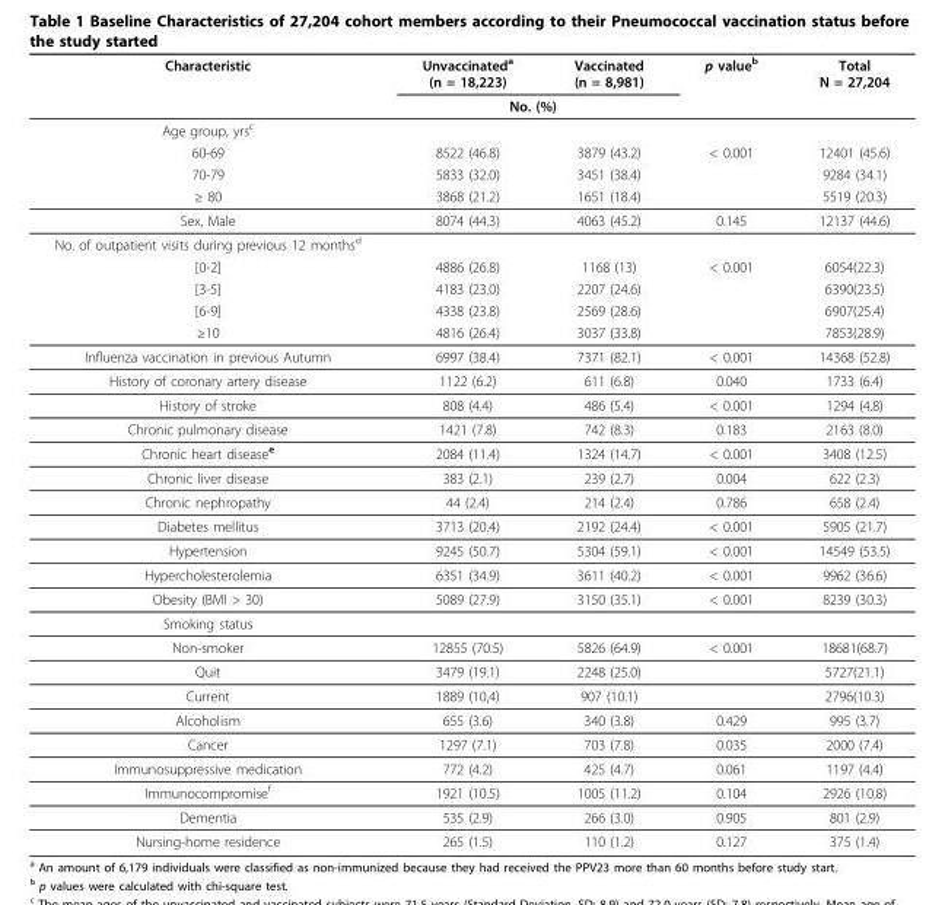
<table><thead><tr><td rowspan="2">Characteristic</td><td>Unvaccinated<sup>a</sup> (n = 18,223)</td><td>Vaccinated (n = 8,981)</td><td rowspan="2">p value<sup>b</sup></td><td rowspan="2">Total N = 27,204</td></tr><tr><td colspan="2">No. (%)</td></tr></thead><tbody><tr><td colspan="5">Age group, yrs<sup>c</sup></td></tr><tr><td>60-69</td><td>8522 (46.8)</td><td>3879 (43.2)</td><td>&lt; 0.001</td><td>12401 (45.6)</td></tr><tr><td>70-79</td><td>5833 (32.0)</td><td>3451 (38.4)</td><td></td><td>9284 (34.1)</td></tr><tr><td>≥ 80</td><td>3868 (21.2)</td><td>1651 (18.4)</td><td></td><td>5519 (20.3)</td></tr><tr><td>Sex, Male</td><td>8074 (44.3)</td><td>4063 (45.2)</td><td>0.145</td><td>12137 (44.6)</td></tr><tr><td colspan="5">No. of outpatient visits during previous 12 months<sup>d</sup></td></tr><tr><td>[0-2]</td><td>4886 (26.8)</td><td>1168 (13)</td><td>&lt; 0.001</td><td>6054(22.3)</td></tr><tr><td>[3-5]</td><td>4183 (23.0)</td><td>2207 (24.6)</td><td></td><td>6390(23.5)</td></tr><tr><td>[6-9]</td><td>4338 (23.8)</td><td>2569 (28.6)</td><td></td><td>6907(25.4)</td></tr><tr><td>≥10</td><td>4816 (26.4)</td><td>3037 (33.8)</td><td></td><td>7853(28.9)</td></tr><tr><td>Influenza vaccination in previous Autumn</td><td>6997 (38.4)</td><td>7371 (82.1)</td><td>&lt; 0.001</td><td>14368 (52.8)</td></tr><tr><td>History of coronary artery disease</td><td>1122 (6.2)</td><td>611 (6.8)</td><td>0.040</td><td>1733 (6.4)</td></tr><tr><td>History of stroke</td><td>808 (4.4)</td><td>486 (5.4)</td><td>&lt; 0.001</td><td>1294 (4.8)</td></tr><tr><td>Chronic pulmonary disease</td><td>1421 (7.8)</td><td>742 (8.3)</td><td>0.183</td><td>2163 (8.0)</td></tr><tr><td>Chronic heart disease<sup>e</sup></td><td>2084 (11.4)</td><td>1324 (14.7)</td><td>&lt; 0.001</td><td>3408 (12.5)</td></tr><tr><td>Chronic liver disease</td><td>383 (2.1)</td><td>239 (2.7)</td><td>0.004</td><td>622 (2.3)</td></tr><tr><td>Chronic nephropathy</td><td>44 (2.4)</td><td>214 (2.4)</td><td>0.786</td><td>658 (2.4)</td></tr><tr><td>Diabetes mellitus</td><td>3713 (20.4)</td><td>2192 (24.4)</td><td>&lt; 0.001</td><td>5905 (21.7)</td></tr><tr><td>Hypertension</td><td>9245 (50.7)</td><td>5304 (59.1)</td><td>&lt; 0.001</td><td>14549 (53.5)</td></tr><tr><td>Hypercholesterolemia</td><td>6351 (34.9)</td><td>3611 (40.2)</td><td>&lt; 0.001</td><td>9962 (36.6)</td></tr><tr><td>Obesity (BMI &gt; 30)</td><td>5089 (27.9)</td><td>3150 (35.1)</td><td>&lt; 0.001</td><td>8239 (30.3)</td></tr><tr><td colspan="5">Smoking status</td></tr><tr><td>Non-smoker</td><td>12855 (70.5)</td><td>5826 (64.9)</td><td>&lt; 0.001</td><td>18681(68.7)</td></tr><tr><td>Quit</td><td>3479 (19.1)</td><td>2248 (25.0)</td><td></td><td>5727(21.1)</td></tr><tr><td>Current</td><td>1889 (10,4)</td><td>907 (10.1)</td><td></td><td>2796(10.3)</td></tr><tr><td>Alcoholism</td><td>655 (3.6)</td><td>340 (3.8)</td><td>0.429</td><td>995 (3.7)</td></tr><tr><td>Cancer</td><td>1297 (7.1)</td><td>703 (7.8)</td><td>0.035</td><td>2000 (7.4)</td></tr><tr><td>Immunosuppressive medication</td><td>772 (4.2)</td><td>425 (4.7)</td><td>0.061</td><td>1197 (4.4)</td></tr><tr><td>Immunocompromise<sup>f</sup></td><td>1921 (10.5)</td><td>1005 (11.2)</td><td>0.104</td><td>2926 (10.8)</td></tr><tr><td>Dementia</td><td>535 (2.9)</td><td>266 (3.0)</td><td>0.905</td><td>801 (2.9)</td></tr><tr><td>Nursing-home residence</td><td>265 (1.5)</td><td>110 (1.2)</td><td>0.127</td><td>375 (1.4)</td></tr></tbody></table>